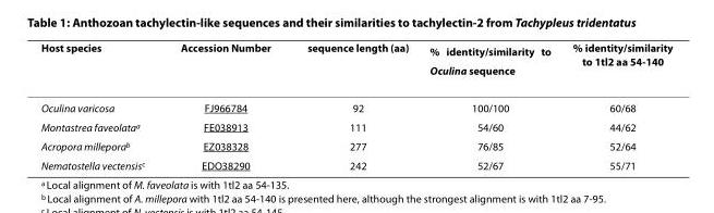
<table><thead><tr><td>Host species</td><td>Accession Number</td><td>sequence length (aa)</td><td>% identity/similarity to Oculina sequence</td><td>% identity/similarity to 1tl2 aa 54-140</td></tr></thead><tbody><tr><td>Oculina varicosa</td><td>FJ966784</td><td>92</td><td>100/100</td><td>60/68</td></tr><tr><td>Montastrea faveolata<sup>a</sup></td><td>FE038913</td><td>111</td><td>54/60</td><td>44/62</td></tr><tr><td>Acropora millepora<sup>b</sup></td><td>EZ038328</td><td>277</td><td>76/85</td><td>52/64</td></tr><tr><td>Nematostella vectensis<sup>c</sup></td><td>EDO38290</td><td>242</td><td>52/67</td><td>55/71</td></tr></tbody></table>